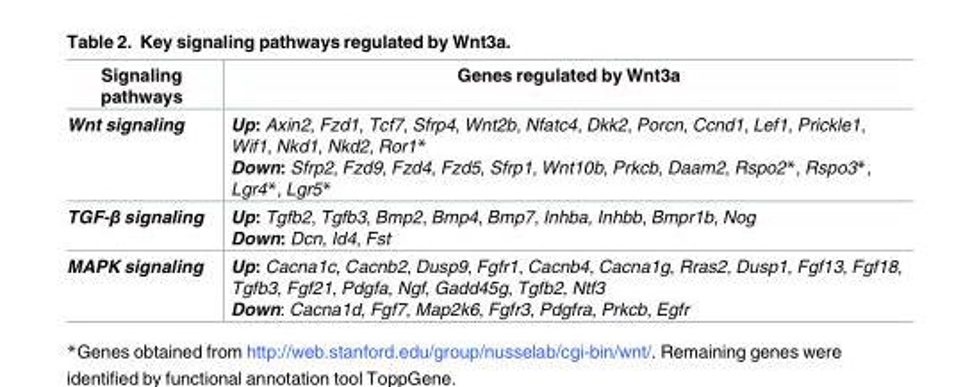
<table><thead><tr><td>Signaling pathways</td><td>Genes regulated by Wnt3a</td></tr></thead><tbody><tr><td>Wnt signaling</td><td>Up: Axin2, Fzd1, Tcf7, Sfrp4, Wnt2b, Nfatc4, Dkk2, Porcn, Ccnd1, Lef1, Prickle1, Wif1, Nkd1, Nkd2, Ror1* Down: Sfrp2, Fzd9, Fzd4, Fzd5, Sfrp1, Wnt10b, Prkcb, Daam2, Rspo2*, Rspo3*, Lgr4*, Lgr5*</td></tr><tr><td>TGF-β signaling</td><td>Up: Tgfb2, Tgfb3, Bmp2, Bmp4, Bmp7, Inhba, Inhbb, Bmpr1b, Nog Down: Dcn, Id4, Fst</td></tr><tr><td>MAPK signaling</td><td>Up: Cacna1c, Cacnb2, Dusp9, Fgfr1, Cacnb4, Cacna1g, Rras2, Dusp1, Fgf13, Fgf18, Tgfb3, Fgf21, Pdgfa, Ngf, Gadd45g, Tgfb2, Ntf3 Down: Cacna1d, Fgf7, Map2k6, Fgfr3, Pdgfra, Prkcb, Egfr</td></tr></tbody></table>